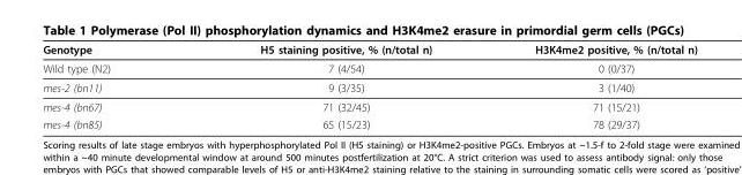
<table><thead><tr><td>Genotype</td><td>H5 staining positive, % (n/total n)</td><td>H3K4me2 positive, % (n/total n)</td></tr></thead><tbody><tr><td>Wild type (N2)</td><td>7 (4/54)</td><td>0 (0/37)</td></tr><tr><td>mes-2 (bn11)</td><td>9 (3/35)</td><td>3 (1/40)</td></tr><tr><td>mes-4 (bn67)</td><td>71 (32/45)</td><td>71 (15/21)</td></tr><tr><td>mes-4 (bn85)</td><td>65 (15/23)</td><td>78 (29/37)</td></tr></tbody></table>